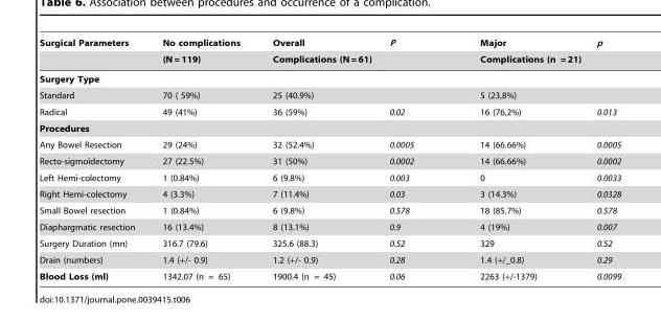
<table><thead><tr><td rowspan="2">Surgical Parameters</td><td rowspan="2">No complications (N = 119)</td><td rowspan="2">Overall Complications (N = 61)</td><td rowspan="2">P</td><td rowspan="2">Major Complications (n = 21)</td><td rowspan="2">p</td></tr><tr></tr></thead><tbody><tr><td colspan="6">Surgery Type</td></tr><tr><td>Standard</td><td>70 ( 59%)</td><td>25 (40.9%)</td><td></td><td>5 (23,8%)</td><td></td></tr><tr><td>Radical</td><td>49 (41%)</td><td>36 (59%)</td><td>0.02</td><td>16 (76,2%)</td><td>0.013</td></tr><tr><td colspan="6">Procedures</td></tr><tr><td>Any Bowel Resection</td><td>29 (24%)</td><td>32 (52.4%)</td><td>0.0005</td><td>14 (66.66%)</td><td>0.0005</td></tr><tr><td>Recto-sigmoı¨dectomy</td><td>27 (22.5%)</td><td>31 (50%)</td><td>0.0002</td><td>14 (66.66%)</td><td>0.0002</td></tr><tr><td>Left Hemi-colectomy</td><td>1 (0.84%)</td><td>6 (9.8%)</td><td>0.003</td><td>0</td><td>0.0033</td></tr><tr><td>Right Hemi-colectomy</td><td>4 (3.3%)</td><td>7 (11.4%)</td><td>0.03</td><td>3 (14.3%)</td><td>0.0328</td></tr><tr><td>Small Bowel resection</td><td>1 (0.84%)</td><td>6 (9.8%)</td><td>0.578</td><td>18 (85.7%)</td><td>0.578</td></tr><tr><td>Diaphargmatic resection</td><td>16 (13.4%)</td><td>8 (13.1%)</td><td>0.9</td><td>4 (19%)</td><td>0.007</td></tr><tr><td>Surgery Duration (mn)</td><td>316.7 (79.6)</td><td>325.6 (88.3)</td><td>0.52</td><td>329</td><td>0.52</td></tr><tr><td>Drain (numbers)</td><td>1.4 (+/- 0.9)</td><td>1.2 (+/- 0.9)</td><td>0.28</td><td>1.4 (+/_0.8)</td><td>0.29</td></tr><tr><td>Blood Loss (ml)</td><td>1342.07 (n = 65)</td><td>1900.4 (n = 45)</td><td>0.06</td><td>2263 (+/-1379)</td><td>0.0099</td></tr></tbody></table>